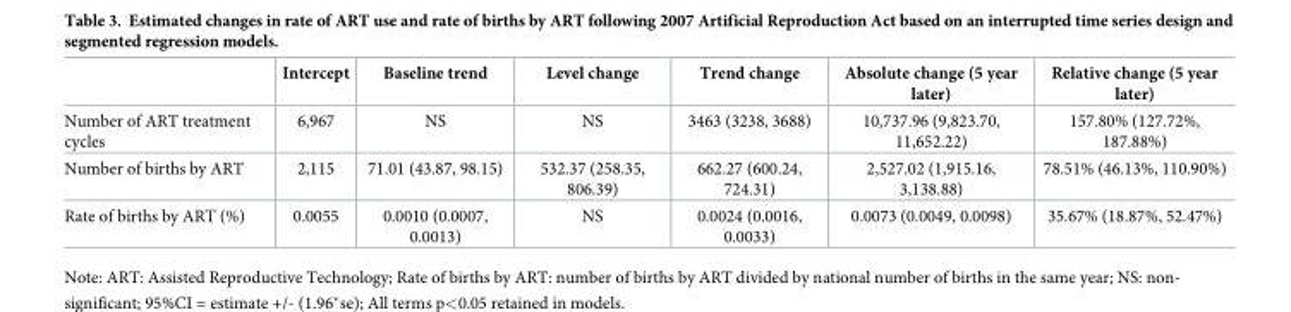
<table><thead><tr><td></td><td>Intercept</td><td>Baseline trend</td><td>Level change</td><td>Trend change</td><td>Absolute change (5 year later)</td><td>Relative change (5 year later)</td></tr></thead><tbody><tr><td>Number of ART treatment cycles</td><td>6,967</td><td>NS</td><td>NS</td><td>3463 (3238, 3688)</td><td>10,737.96 (9,823.70, 11,652.22)</td><td>157.80% (127.72%, 187.88%)</td></tr><tr><td>Number of births by ART</td><td>2,115</td><td>71.01 (43.87, 98.15)</td><td>532.37 (258.35, 806.39)</td><td>662.27 (600.24, 724.31)</td><td>2,527.02 (1,915.16, 3,138.88)</td><td>78.51% (46.13%, 110.90%)</td></tr><tr><td>Rate of births by ART (%)</td><td>0.0055</td><td>0.0010 (0.0007, 0.0013)</td><td>NS</td><td>0.0024 (0.0016, 0.0033)</td><td>0.0073 (0.0049, 0.0098)</td><td>35.67% (18.87%, 52.47%)</td></tr></tbody></table>